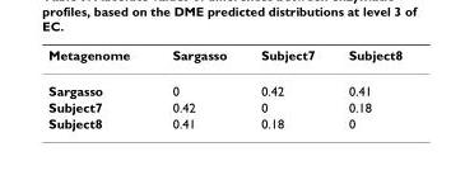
<table><thead><tr><td>Metagenome</td><td>Sargasso</td><td>Subject7</td><td>Subject8</td></tr></thead><tbody><tr><td>Sargasso</td><td>0</td><td>0.42</td><td>0.41</td></tr><tr><td>Subject7</td><td>0.42</td><td>0</td><td>0.18</td></tr><tr><td>Subject8</td><td>0.41</td><td>0.18</td><td>0</td></tr></tbody></table>